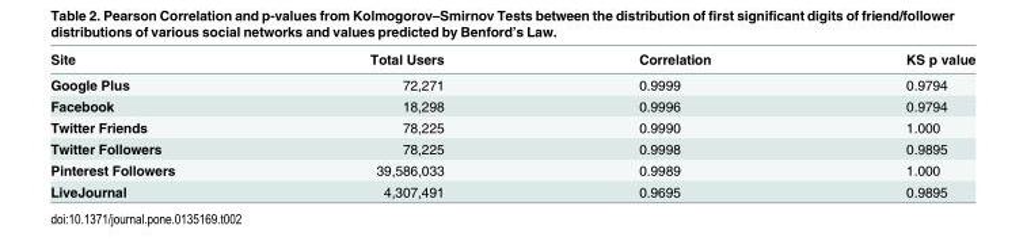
<table><thead><tr><td>Site</td><td>Total Users</td><td>Correlation</td><td>KS p value</td></tr></thead><tbody><tr><td>Google Plus</td><td>72,271</td><td>0.9999</td><td>0.9794</td></tr><tr><td>Facebook</td><td>18,298</td><td>0.9996</td><td>0.9794</td></tr><tr><td>Twitter Friends</td><td>78,225</td><td>0.9990</td><td>1.000</td></tr><tr><td>Twitter Followers</td><td>78,225</td><td>0.9998</td><td>0.9895</td></tr><tr><td>Pinterest Followers</td><td>39,586,033</td><td>0.9989</td><td>1.000</td></tr><tr><td>LiveJournal</td><td>4,307,491</td><td>0.9695</td><td>0.9895</td></tr></tbody></table>